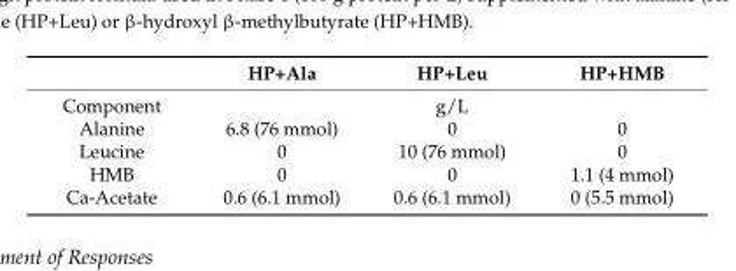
<table><thead><tr><td></td><td>HP+Ala</td><td>HP+Leu</td><td>HP+HMB</td></tr></thead><tbody><tr><td>Component</td><td colspan="3">g/L</td></tr><tr><td>Alanine</td><td>6.8 (76 mmol)</td><td>0</td><td>0</td></tr><tr><td>Leucine</td><td>0</td><td>10 (76 mmol)</td><td>0</td></tr><tr><td>HMB</td><td>0</td><td>0</td><td>1.1 (4 mmol)</td></tr><tr><td>Ca-Acetate</td><td>0.6 (6.1 mmol)</td><td>0.6 (6.1 mmol)</td><td>0 (5.5 mmol)</td></tr></tbody></table>